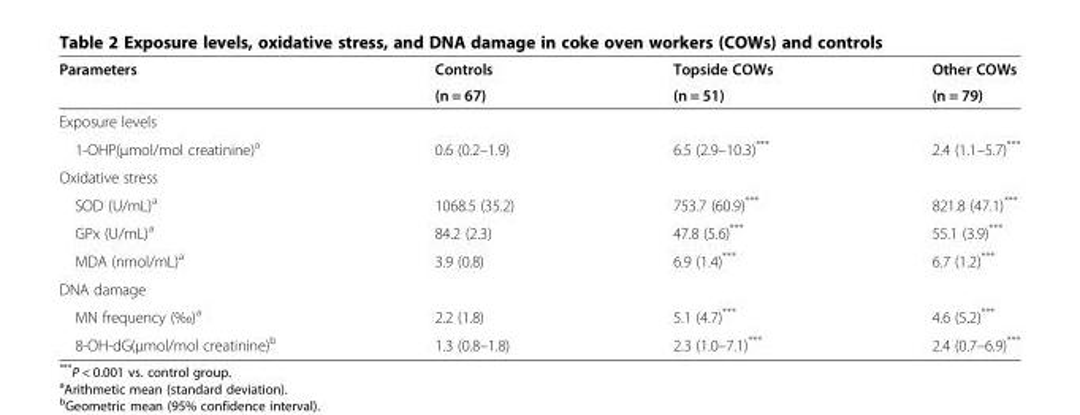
<table><thead><tr><td rowspan="2">Parameters</td><td rowspan="2">Controls (n = 67)</td><td rowspan="2">Topside COWs (n = 51)</td><td rowspan="2">Other COWs (n = 79)</td></tr><tr></tr></thead><tbody><tr><td colspan="4">Exposure levels</td></tr><tr><td>1-OHP(μmol/mol creatinine)<sup>a</sup></td><td>0.6 (0.2–1.9)</td><td>6.5 (2.9–10.3)***</td><td>2.4 (1.1–5.7)***</td></tr><tr><td colspan="4">Oxidative stress</td></tr><tr><td>SOD (U/mL)<sup>a</sup></td><td>1068.5 (35.2)</td><td>753.7 (60.9)***</td><td>821.8 (47.1)***</td></tr><tr><td>GPx (U/mL)<sup>a</sup></td><td>84.2 (2.3)</td><td>47.8 (5.6)***</td><td>55.1 (3.9)***</td></tr><tr><td>MDA (nmol/mL)<sup>a</sup></td><td>3.9 (0.8)</td><td>6.9 (1.4)***</td><td>6.7 (1.2)***</td></tr><tr><td colspan="4">DNA damage</td></tr><tr><td>MN frequency (‰)<sup>a</sup></td><td>2.2 (1.8)</td><td>5.1 (4.7)***</td><td>4.6 (5.2)***</td></tr><tr><td>8-OH-dG(μmol/mol creatinine)<sup>b</sup></td><td>1.3 (0.8–1.8)</td><td>2.3 (1.0–7.1)***</td><td>2.4 (0.7–6.9)***</td></tr></tbody></table>